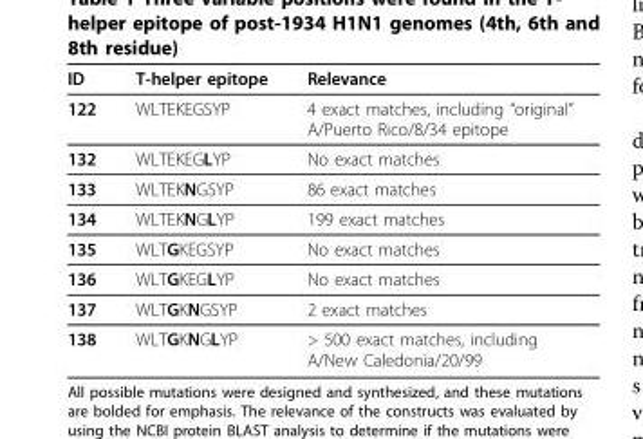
<table><thead><tr><td>ID</td><td>T-helper epitope</td><td>Relevance</td></tr></thead><tbody><tr><td>122</td><td>WLTEKEGSYP</td><td>4 exact matches, including “original” A/Puerto Rico/8/34 epitope</td></tr><tr><td>132</td><td>WLTEKEGLYP</td><td>No exact matches</td></tr><tr><td>133</td><td>WLTEKNGSYP</td><td>86 exact matches</td></tr><tr><td>134</td><td>WLTEKNGLYP</td><td>199 exact matches</td></tr><tr><td>135</td><td>WLTGKEGSYP</td><td>No exact matches</td></tr><tr><td>136</td><td>WLTGKEGLYP</td><td>No exact matches</td></tr><tr><td>137</td><td>WLTGKNGSYP</td><td>2 exact matches</td></tr><tr><td>138</td><td>WLTGKNGLYP</td><td>&gt; 500 exact matches, including A/New Caledonia/20/99</td></tr></tbody></table>